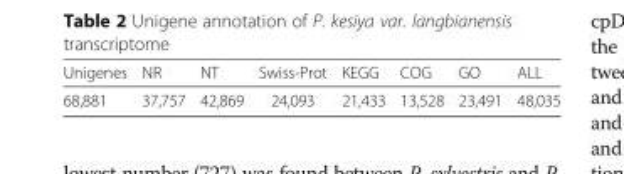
<table><thead><tr><td>Unigenes</td><td>NR</td><td>NT</td><td>Swiss-Prot</td><td>KEGG</td><td>COG</td><td>GO</td><td>ALL</td></tr></thead><tbody><tr><td>68,881</td><td>37,757</td><td>42,869</td><td>24,093</td><td>21,433</td><td>13,528</td><td>23,491</td><td>48,035</td></tr></tbody></table>